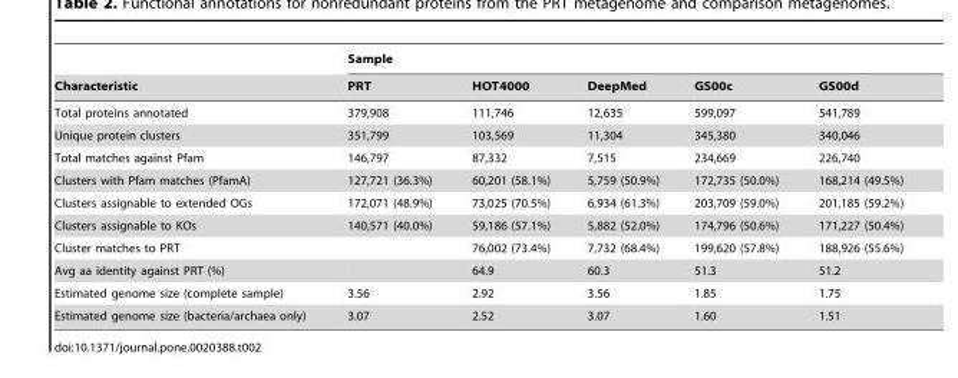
<table><thead><tr><td rowspan="2">Characteristic</td><td colspan="5">Sample</td></tr><tr><td>PRT</td><td>HOT4000</td><td>DeepMed</td><td>GS00c</td><td>GS00d</td></tr></thead><tbody><tr><td>Total proteins annotated</td><td>379,908</td><td>111,746</td><td>12,635</td><td>599,097</td><td>541,789</td></tr><tr><td>Unique protein clusters</td><td>351,799</td><td>103,569</td><td>11,304</td><td>345,380</td><td>340,046</td></tr><tr><td>Total matches against Pfam</td><td>146,797</td><td>87,332</td><td>7,515</td><td>234,669</td><td>226,740</td></tr><tr><td>Clusters with Pfam matches (PfamA)</td><td>127,721 (36.3%)</td><td>60,201 (58.1%)</td><td>5,759 (50.9%)</td><td>172,735 (50.0%)</td><td>168,214 (49.5%)</td></tr><tr><td>Clusters assignable to extended OGs</td><td>172,071 (48.9%)</td><td>73,025 (70.5%)</td><td>6,934 (61.3%)</td><td>203,709 (59.0%)</td><td>201,185 (59.2%)</td></tr><tr><td>Clusters assignable to KOs</td><td>140,571 (40.0%)</td><td>59,186 (57.1%)</td><td>5,882 (52.0%)</td><td>174,796 (50.6%)</td><td>171,227 (50.4%)</td></tr><tr><td>Cluster matches to PRT</td><td></td><td>76,002 (73.4%)</td><td>7,732 (68.4%)</td><td>199,620 (57.8%)</td><td>188,926 (55.6%)</td></tr><tr><td>Avg aa identity against PRT (%)</td><td></td><td>64.9</td><td>60.3</td><td>51.3</td><td>51.2</td></tr><tr><td>Estimated genome size (complete sample)</td><td>3.56</td><td>2.92</td><td>3.56</td><td>1.85</td><td>1.75</td></tr><tr><td>Estimated genome size (bacteria/archaea only)</td><td>3.07</td><td>2.52</td><td>3.07</td><td>1.60</td><td>1.51</td></tr></tbody></table>